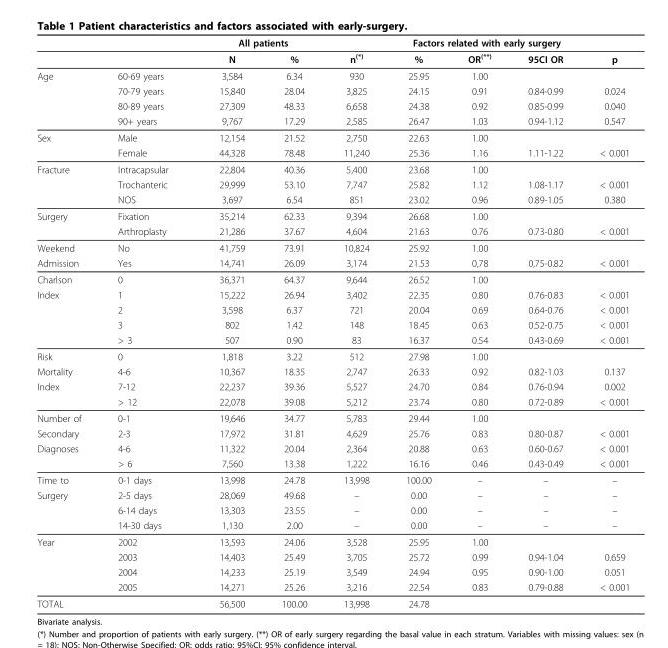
<table><thead><tr><td rowspan="2"></td><td rowspan="2"></td><td colspan="2">All patients</td><td colspan="5">Factors related with early surgery</td></tr><tr><td>N</td><td>%</td><td>n<sup>(*)</sup></td><td>%</td><td>OR<sup>(**)</sup></td><td>95CI OR</td><td>p</td></tr></thead><tbody><tr><td rowspan="4">Age</td><td>60-69 years</td><td>3,584</td><td>6.34</td><td>930</td><td>25.95</td><td>1.00</td><td></td><td></td></tr><tr><td>70-79 years</td><td>15,840</td><td>28.04</td><td>3,825</td><td>24.15</td><td>0.91</td><td>0.84-0.99</td><td>0.024</td></tr><tr><td>80-89 years</td><td>27,309</td><td>48.33</td><td>6,658</td><td>24.38</td><td>0.92</td><td>0.85-0.99</td><td>0.040</td></tr><tr><td>90+ years</td><td>9,767</td><td>17.29</td><td>2,585</td><td>26.47</td><td>1.03</td><td>0.94-1.12</td><td>0.547</td></tr><tr><td rowspan="2">Sex</td><td>Male</td><td>12,154</td><td>21.52</td><td>2,750</td><td>22.63</td><td>1.00</td><td></td><td></td></tr><tr><td>Female</td><td>44,328</td><td>78.48</td><td>11,240</td><td>25.36</td><td>1.16</td><td>1.11-1.22</td><td>&lt; 0.001</td></tr><tr><td rowspan="3">Fracture</td><td>Intracapsular</td><td>22,804</td><td>40.36</td><td>5,400</td><td>23.68</td><td>1.00</td><td></td><td></td></tr><tr><td>Trochanteric</td><td>29,999</td><td>53.10</td><td>7,747</td><td>25.82</td><td>1.12</td><td>1.08-1.17</td><td>&lt; 0.001</td></tr><tr><td>NOS</td><td>3,697</td><td>6.54</td><td>851</td><td>23.02</td><td>0.96</td><td>0.89-1.05</td><td>0.380</td></tr><tr><td rowspan="2">Surgery</td><td>Fixation</td><td>35,214</td><td>62.33</td><td>9,394</td><td>26.68</td><td>1.00</td><td></td><td></td></tr><tr><td>Arthroplasty</td><td>21,286</td><td>37.67</td><td>4,604</td><td>21.63</td><td>0.76</td><td>0.73-0.80</td><td>&lt; 0.001</td></tr><tr><td>Weekend</td><td>No</td><td>41,759</td><td>73.91</td><td>10,824</td><td>25.92</td><td>1.00</td><td></td><td></td></tr><tr><td>Admission</td><td>Yes</td><td>14,741</td><td>26.09</td><td>3,174</td><td>21.53</td><td>0,78</td><td>0,75-0.82</td><td>&lt; 0.001</td></tr><tr><td>Charlson</td><td>0</td><td>36,371</td><td>64.37</td><td>9,644</td><td>26.52</td><td>1.00</td><td></td><td></td></tr><tr><td rowspan="4">Index</td><td>1</td><td>15,222</td><td>26.94</td><td>3,402</td><td>22.35</td><td>0.80</td><td>0.76-0.83</td><td>&lt; 0.001</td></tr><tr><td>2</td><td>3,598</td><td>6.37</td><td>721</td><td>20.04</td><td>0.69</td><td>0.64-0.76</td><td>&lt; 0.001</td></tr><tr><td>3</td><td>802</td><td>1.42</td><td>148</td><td>18.45</td><td>0.63</td><td>0.52-0.75</td><td>&lt; 0.001</td></tr><tr><td>&gt; 3</td><td>507</td><td>0.90</td><td>83</td><td>16.37</td><td>0.54</td><td>0.43-0.69</td><td>&lt; 0.001</td></tr><tr><td>Risk</td><td>0</td><td>1,818</td><td>3.22</td><td>512</td><td>27.98</td><td>1.00</td><td></td><td></td></tr><tr><td>Mortality</td><td>4-6</td><td>10,367</td><td>18.35</td><td>2,747</td><td>26.33</td><td>0.92</td><td>0.82-1.03</td><td>0.137</td></tr><tr><td rowspan="2">Index</td><td>7-12</td><td>22,237</td><td>39.36</td><td>5,527</td><td>24.70</td><td>0.84</td><td>0.76-0.94</td><td>0.002</td></tr><tr><td>&gt; 12</td><td>22,078</td><td>39.08</td><td>5,212</td><td>23.74</td><td>0.80</td><td>0.72-0.89</td><td>&lt; 0.001</td></tr><tr><td>Number of</td><td>0-1</td><td>19,646</td><td>34.77</td><td>5,783</td><td>29.44</td><td>1.00</td><td></td><td></td></tr><tr><td>Secondary</td><td>2-3</td><td>17,972</td><td>31.81</td><td>4,629</td><td>25.76</td><td>0.83</td><td>0.80-0.87</td><td>&lt; 0.001</td></tr><tr><td rowspan="2">Diagnoses</td><td>4-6</td><td>11,322</td><td>20.04</td><td>2,364</td><td>20.88</td><td>0.63</td><td>0.60-0.67</td><td>&lt; 0.001</td></tr><tr><td>&gt; 6</td><td>7,560</td><td>13.38</td><td>1,222</td><td>16.16</td><td>0.46</td><td>0.43-0.49</td><td>&lt; 0.001</td></tr><tr><td>Time to</td><td>0-1 days</td><td>13,998</td><td>24.78</td><td>13,998</td><td>100.00</td><td>–</td><td>–</td><td>–</td></tr><tr><td rowspan="3">Surgery</td><td>2-5 days</td><td>28,069</td><td>49.68</td><td>–</td><td>0.00</td><td>–</td><td>–</td><td>–</td></tr><tr><td>6-14 days</td><td>13,303</td><td>23.55</td><td>–</td><td>0.00</td><td>–</td><td>–</td><td>–</td></tr><tr><td>14-30 days</td><td>1,130</td><td>2.00</td><td>–</td><td>0.00</td><td>–</td><td>–</td><td>–</td></tr><tr><td rowspan="4">Year</td><td>2002</td><td>13,593</td><td>24.06</td><td>3,528</td><td>25.95</td><td>1.00</td><td></td><td></td></tr><tr><td>2003</td><td>14,403</td><td>25.49</td><td>3,705</td><td>25.72</td><td>0.99</td><td>0.94-1.04</td><td>0.659</td></tr><tr><td>2004</td><td>14,233</td><td>25.19</td><td>3,549</td><td>24.94</td><td>0.95</td><td>0.90-1.00</td><td>0.051</td></tr><tr><td>2005</td><td>14,271</td><td>25.26</td><td>3,216</td><td>22.54</td><td>0.83</td><td>0.79-0.88</td><td>&lt; 0.001</td></tr><tr><td>TOTAL</td><td></td><td>56,500</td><td>100.00</td><td>13,998</td><td>24.78</td><td></td><td></td><td></td></tr></tbody></table>